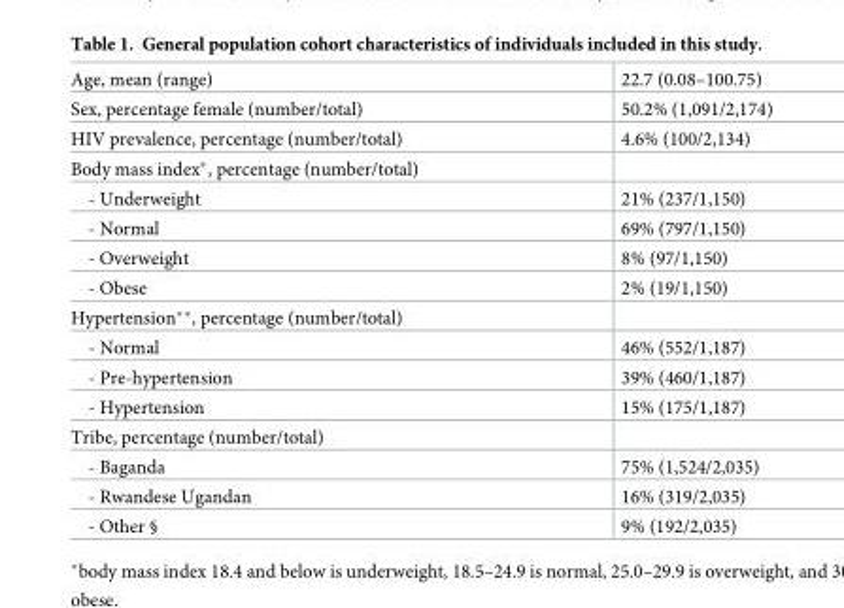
<table><tbody><tr><td>Age, mean (range)</td><td>22.7 (0.08–100.75)</td></tr><tr><td>Sex, percentage female (number/total)</td><td>50.2% (1,091/2,174)</td></tr><tr><td>HIV prevalence, percentage (number/total)</td><td>4.6% (100/2,134)</td></tr><tr><td colspan="2">Body mass index*, percentage (number/total)</td></tr><tr><td>- Underweight</td><td>21% (237/1,150)</td></tr><tr><td>- Normal</td><td>69% (797/1,150)</td></tr><tr><td>- Overweight</td><td>8% (97/1,150)</td></tr><tr><td>- Obese</td><td>2% (19/1,150)</td></tr><tr><td colspan="2">Hypertension**, percentage (number/total)</td></tr><tr><td>- Normal</td><td>46% (552/1,187)</td></tr><tr><td>- Pre-hypertension</td><td>39% (460/1,187)</td></tr><tr><td>- Hypertension</td><td>15% (175/1,187)</td></tr><tr><td colspan="2">Tribe, percentage (number/total)</td></tr><tr><td>- Baganda</td><td>75% (1,524/2,035)</td></tr><tr><td>- Rwandese Ugandan</td><td>16% (319/2,035)</td></tr><tr><td>- Other §</td><td>9% (192/2,035)</td></tr></tbody></table>